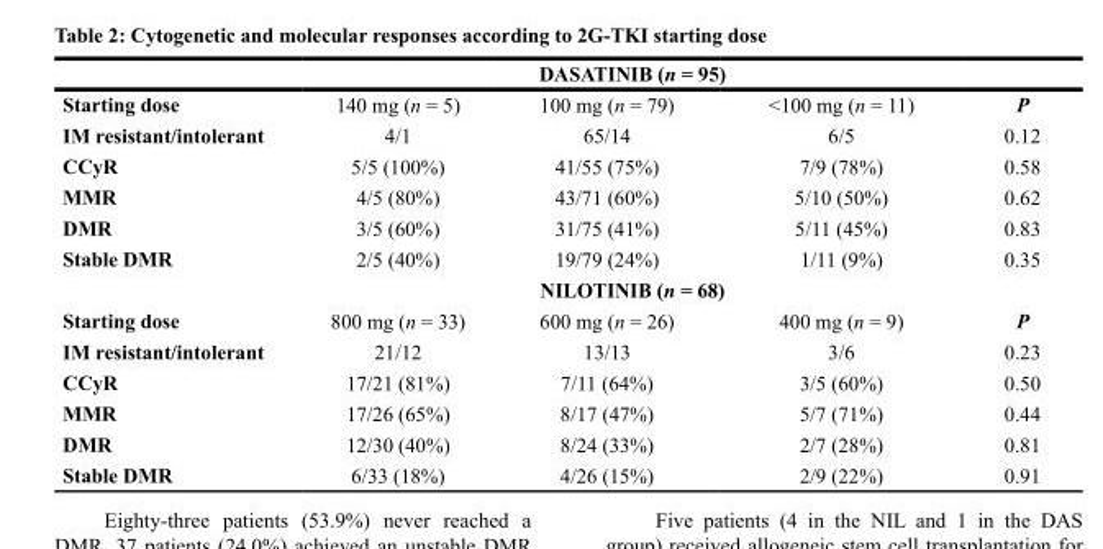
<table><thead><tr><td rowspan="2">Starting dose</td><td colspan="4">DASATINIB (n = 95)</td></tr><tr><td>140 mg (n = 5)</td><td>100 mg (n = 79)</td><td>&lt;100 mg (n = 11)</td><td>P</td></tr></thead><tbody><tr><td>IM resistant/intolerant</td><td>4/1</td><td>65/14</td><td>6/5</td><td>0.12</td></tr><tr><td>CCyR</td><td>5/5 (100%)</td><td>41/55 (75%)</td><td>7/9 (78%)</td><td>0.58</td></tr><tr><td>MMR</td><td>4/5 (80%)</td><td>43/71 (60%)</td><td>5/10 (50%)</td><td>0.62</td></tr><tr><td>DMR</td><td>3/5 (60%)</td><td>31/75 (41%)</td><td>5/11 (45%)</td><td>0.83</td></tr><tr><td rowspan="2">Stable DMR</td><td>2/5 (40%)</td><td>19/79 (24%)</td><td>1/11 (9%)</td><td>0.35</td></tr><tr><td colspan="4">NILOTINIB (n = 68)</td></tr><tr><td>Starting dose</td><td>800 mg (n = 33)</td><td>600 mg (n = 26)</td><td>400 mg (n = 9)</td><td>P</td></tr><tr><td>IM resistant/intolerant</td><td>21/12</td><td>13/13</td><td>3/6</td><td>0.23</td></tr><tr><td>CCyR</td><td>17/21 (81%)</td><td>7/11 (64%)</td><td>3/5 (60%)</td><td>0.50</td></tr><tr><td>MMR</td><td>17/26 (65%)</td><td>8/17 (47%)</td><td>5/7 (71%)</td><td>0.44</td></tr><tr><td>DMR</td><td>12/30 (40%)</td><td>8/24 (33%)</td><td>2/7 (28%)</td><td>0.81</td></tr><tr><td>Stable DMR</td><td>6/33 (18%)</td><td>4/26 (15%)</td><td>2/9 (22%)</td><td>0.91</td></tr></tbody></table>